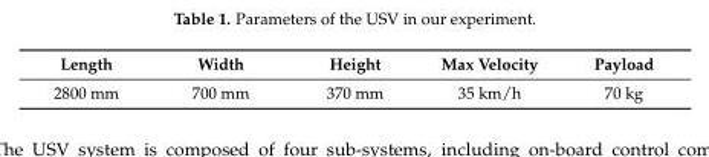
<table><thead><tr><td>Length</td><td>Width</td><td>Height</td><td>Max Velocity</td><td>Payload</td></tr></thead><tbody><tr><td>2800 mm</td><td>700 mm</td><td>370 mm</td><td>35 km/h</td><td>70 kg</td></tr></tbody></table>